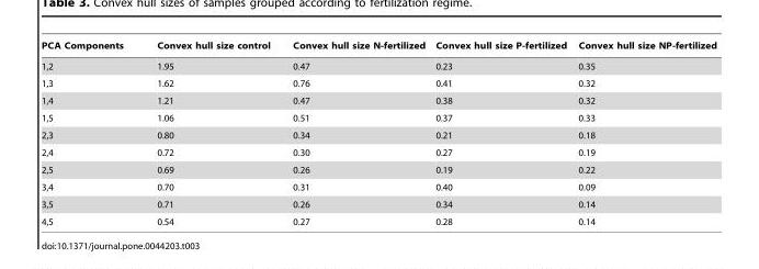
<table><thead><tr><td>PCA Components</td><td>Convex hull size control</td><td>Convex hull size N-fertilized</td><td>Convex hull size P-fertilized</td><td>Convex hull size NP-fertilized</td></tr></thead><tbody><tr><td>1,2</td><td>1.95</td><td>0.47</td><td>0.23</td><td>0.35</td></tr><tr><td>1,3</td><td>1.62</td><td>0.76</td><td>0.41</td><td>0.32</td></tr><tr><td>1,4</td><td>1.21</td><td>0.47</td><td>0.38</td><td>0.32</td></tr><tr><td>1,5</td><td>1.06</td><td>0.51</td><td>0.37</td><td>0.33</td></tr><tr><td>2,3</td><td>0.80</td><td>0.34</td><td>0.21</td><td>0.18</td></tr><tr><td>2,4</td><td>0.72</td><td>0.30</td><td>0.27</td><td>0.19</td></tr><tr><td>2,5</td><td>0.69</td><td>0.26</td><td>0.19</td><td>0.22</td></tr><tr><td>3,4</td><td>0.70</td><td>0.31</td><td>0.40</td><td>0.09</td></tr><tr><td>3,5</td><td>0.71</td><td>0.26</td><td>0.34</td><td>0.14</td></tr><tr><td>4,5</td><td>0.54</td><td>0.27</td><td>0.28</td><td>0.14</td></tr></tbody></table>